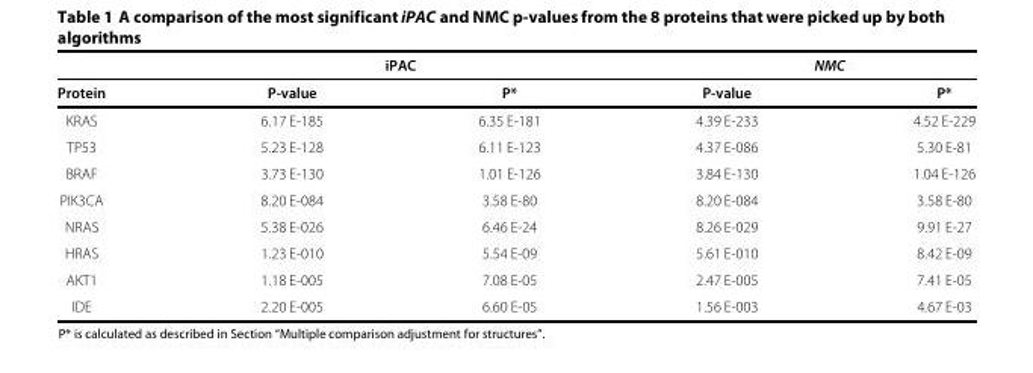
<table><thead><tr><td rowspan="2">Protein</td><td colspan="2">iPAC</td><td colspan="2">NMC</td></tr><tr><td>P-value</td><td>P*</td><td>P-value</td><td>P*</td></tr></thead><tbody><tr><td>KRAS</td><td>6.17 E-185</td><td>6.35 E-181</td><td>4.39 E-233</td><td>4.52 E-229</td></tr><tr><td>TP53</td><td>5.23 E-128</td><td>6.11 E-123</td><td>4.37 E-086</td><td>5.30 E-81</td></tr><tr><td>BRAF</td><td>3.73 E-130</td><td>1.01 E-126</td><td>3.84 E-130</td><td>1.04 E-126</td></tr><tr><td>PIK3CA</td><td>8.20 E-084</td><td>3.58 E-80</td><td>8.20 E-084</td><td>3.58 E-80</td></tr><tr><td>NRAS</td><td>5.38 E-026</td><td>6.46 E-24</td><td>8.26 E-029</td><td>9.91 E-27</td></tr><tr><td>HRAS</td><td>1.23 E-010</td><td>5.54 E-09</td><td>5.61 E-010</td><td>8.42 E-09</td></tr><tr><td>AKT1</td><td>1.18 E-005</td><td>7.08 E-05</td><td>2.47 E-005</td><td>7.41 E-05</td></tr><tr><td>IDE</td><td>2.20 E-005</td><td>6.60 E-05</td><td>1.56 E-003</td><td>4.67 E-03</td></tr></tbody></table>